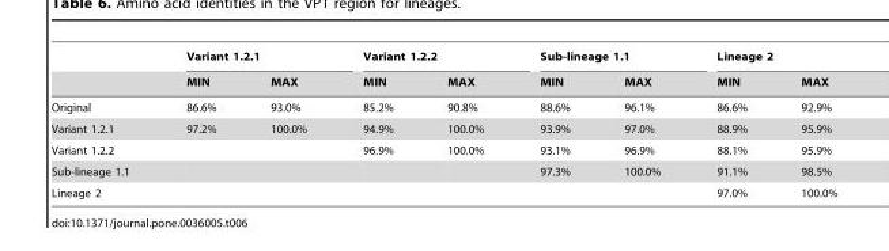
<table><thead><tr><td rowspan="2"></td><td colspan="2">Variant 1.2.1</td><td colspan="2">Variant 1.2.2</td><td colspan="2">Sub-lineage 1.1</td><td colspan="2">Lineage 2</td></tr><tr><td>MIN</td><td>MAX</td><td>MIN</td><td>MAX</td><td>MIN</td><td>MAX</td><td>MIN</td><td>MAX</td></tr></thead><tbody><tr><td>Original</td><td>86.6%</td><td>93.0%</td><td>85.2%</td><td>90.8%</td><td>88.6%</td><td>96.1%</td><td>86.6%</td><td>92.9%</td></tr><tr><td>Variant 1.2.1</td><td>97.2%</td><td>100.0%</td><td>94.9%</td><td>100.0%</td><td>93.9%</td><td>97.0%</td><td>88.9%</td><td>95.9%</td></tr><tr><td>Variant 1.2.2</td><td></td><td></td><td>96.9%</td><td>100.0%</td><td>93.1%</td><td>96.9%</td><td>88.1%</td><td>95.9%</td></tr><tr><td>Sub-lineage 1.1</td><td></td><td></td><td></td><td></td><td>97.3%</td><td>100.0%</td><td>91.1%</td><td>98.5%</td></tr><tr><td>Lineage 2</td><td></td><td></td><td></td><td></td><td></td><td></td><td>97.0%</td><td>100.0%</td></tr></tbody></table>